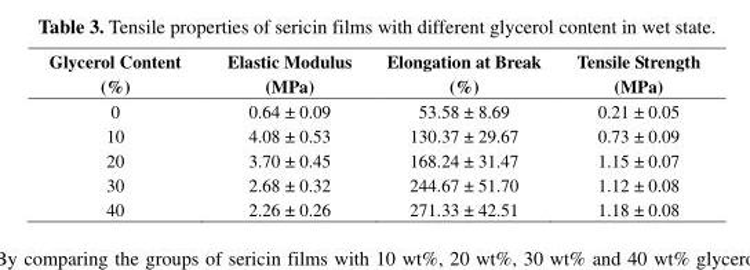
<table><thead><tr><td>Glycerol Content (%)</td><td>Elastic Modulus (MPa)</td><td>Elongation at Break (%)</td><td>Tensile Strength (MPa)</td></tr></thead><tbody><tr><td>0</td><td>0.64 ± 0.09</td><td>53.58 ± 8.69</td><td>0.21 ± 0.05</td></tr><tr><td>10</td><td>4.08 ± 0.53</td><td>130.37 ± 29.67</td><td>0.73 ± 0.09</td></tr><tr><td>20</td><td>3.70 ± 0.45</td><td>168.24 ± 31.47</td><td>1.15 ± 0.07</td></tr><tr><td>30</td><td>2.68 ± 0.32</td><td>244.67 ± 51.70</td><td>1.12 ± 0.08</td></tr><tr><td>40</td><td>2.26 ± 0.26</td><td>271.33 ± 42.51</td><td>1.18 ± 0.08</td></tr></tbody></table>